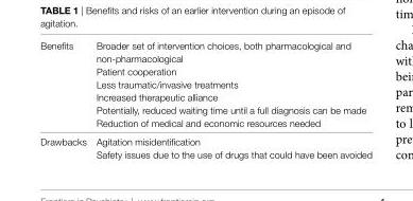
<table><tbody><tr><td rowspan="6">Benefits</td><td>Broader set of intervention choices, both pharmacological and non-pharmacological</td></tr><tr><td>Patient cooperation</td></tr><tr><td>Less traumatic/invasive treatments</td></tr><tr><td>Increased therapeutic alliance</td></tr><tr><td>Potentially, reduced waiting time until a full diagnosis can be made</td></tr><tr><td>Reduction of medical and economic resources needed</td></tr><tr><td rowspan="2">Drawbacks</td><td>Agitation misidentification</td></tr><tr><td>Safety issues due to the use of drugs that could have been avoided</td></tr></tbody></table>